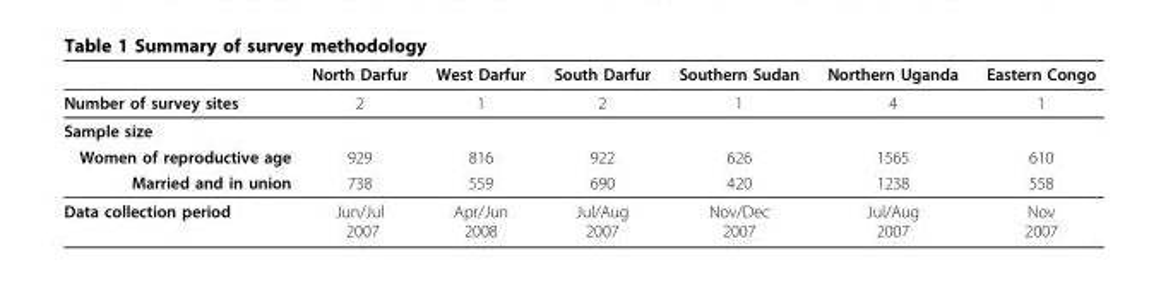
<table><thead><tr><td></td><td>North Darfur</td><td>West Darfur</td><td>South Darfur</td><td>Southern Sudan</td><td>Northern Uganda</td><td>Eastern Congo</td></tr></thead><tbody><tr><td>Number of survey sites</td><td>2</td><td>1</td><td>2</td><td>1</td><td>4</td><td>1</td></tr><tr><td colspan="7">Sample size</td></tr><tr><td>Women of reproductive age</td><td>929</td><td>816</td><td>922</td><td>626</td><td>1565</td><td>610</td></tr><tr><td>Married and in union</td><td>738</td><td>559</td><td>690</td><td>420</td><td>1238</td><td>558</td></tr><tr><td>Data collection period</td><td>Jun/Jul 2007</td><td>Apr/Jun 2008</td><td>Jul/Aug 2007</td><td>Nov/Dec 2007</td><td>Jul/Aug 2007</td><td>Nov 2007</td></tr></tbody></table>